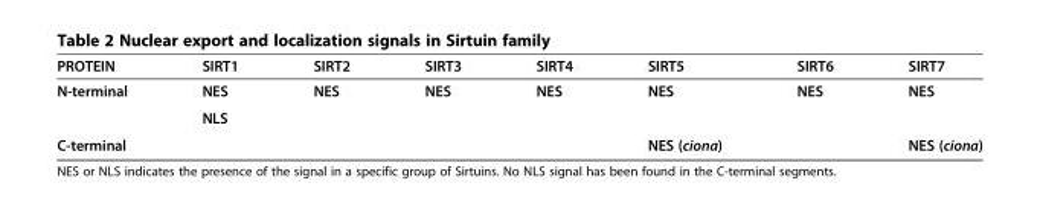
<table><thead><tr><td>PROTEIN</td><td>SIRT1</td><td>SIRT2</td><td>SIRT3</td><td>SIRT4</td><td>SIRT5</td><td>SIRT6</td><td>SIRT7</td></tr></thead><tbody><tr><td rowspan="2">N-terminal</td><td>NES</td><td>NES</td><td>NES</td><td>NES</td><td>NES</td><td>NES</td><td>NES</td></tr><tr><td>NLS</td><td></td><td></td><td></td><td></td><td></td><td></td></tr><tr><td>C-terminal</td><td></td><td></td><td></td><td></td><td>NES (ciona)</td><td></td><td>NES (ciona)</td></tr></tbody></table>